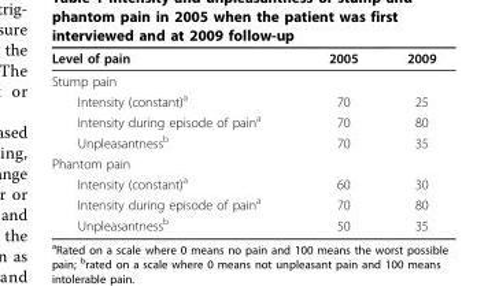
<table><thead><tr><td>Level of pain</td><td>2005</td><td>2009</td></tr></thead><tbody><tr><td colspan="3">Stump pain</td></tr><tr><td>Intensity (constant)<sup>a</sup></td><td>70</td><td>25</td></tr><tr><td>Intensity during episode of pain<sup>a</sup></td><td>70</td><td>80</td></tr><tr><td>Unpleasantness<sup>b</sup></td><td>70</td><td>35</td></tr><tr><td colspan="3">Phantom pain</td></tr><tr><td>Intensity (constant)<sup>a</sup></td><td>60</td><td>30</td></tr><tr><td>Intensity during episode of pain<sup>a</sup></td><td>70</td><td>80</td></tr><tr><td>Unpleasantness<sup>b</sup></td><td>50</td><td>35</td></tr></tbody></table>